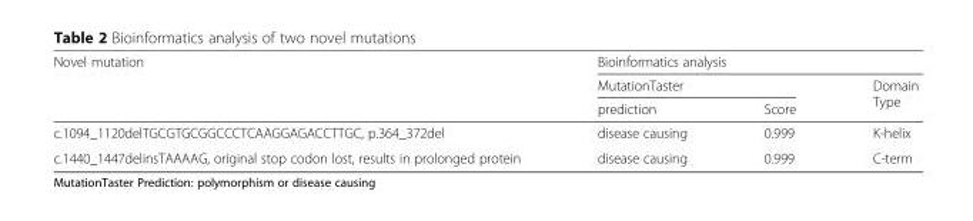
<table><thead><tr><td rowspan="3">Novel mutation</td><td colspan="3">Bioinformatics analysis</td></tr><tr><td colspan="2">MutationTaster</td><td rowspan="2">Domain Type</td></tr><tr><td>prediction</td><td>Score</td></tr></thead><tbody><tr><td>c.1094_1120delTGCGTGCGGCCCTCAAGGAGACCTTGC, p.364_372del</td><td>disease causing</td><td>0.999</td><td>K-helix</td></tr><tr><td>c.1440_1447delinsTAAAAG, original stop codon lost, results in prolonged protein</td><td>disease causing</td><td>0.999</td><td>C-term</td></tr></tbody></table>